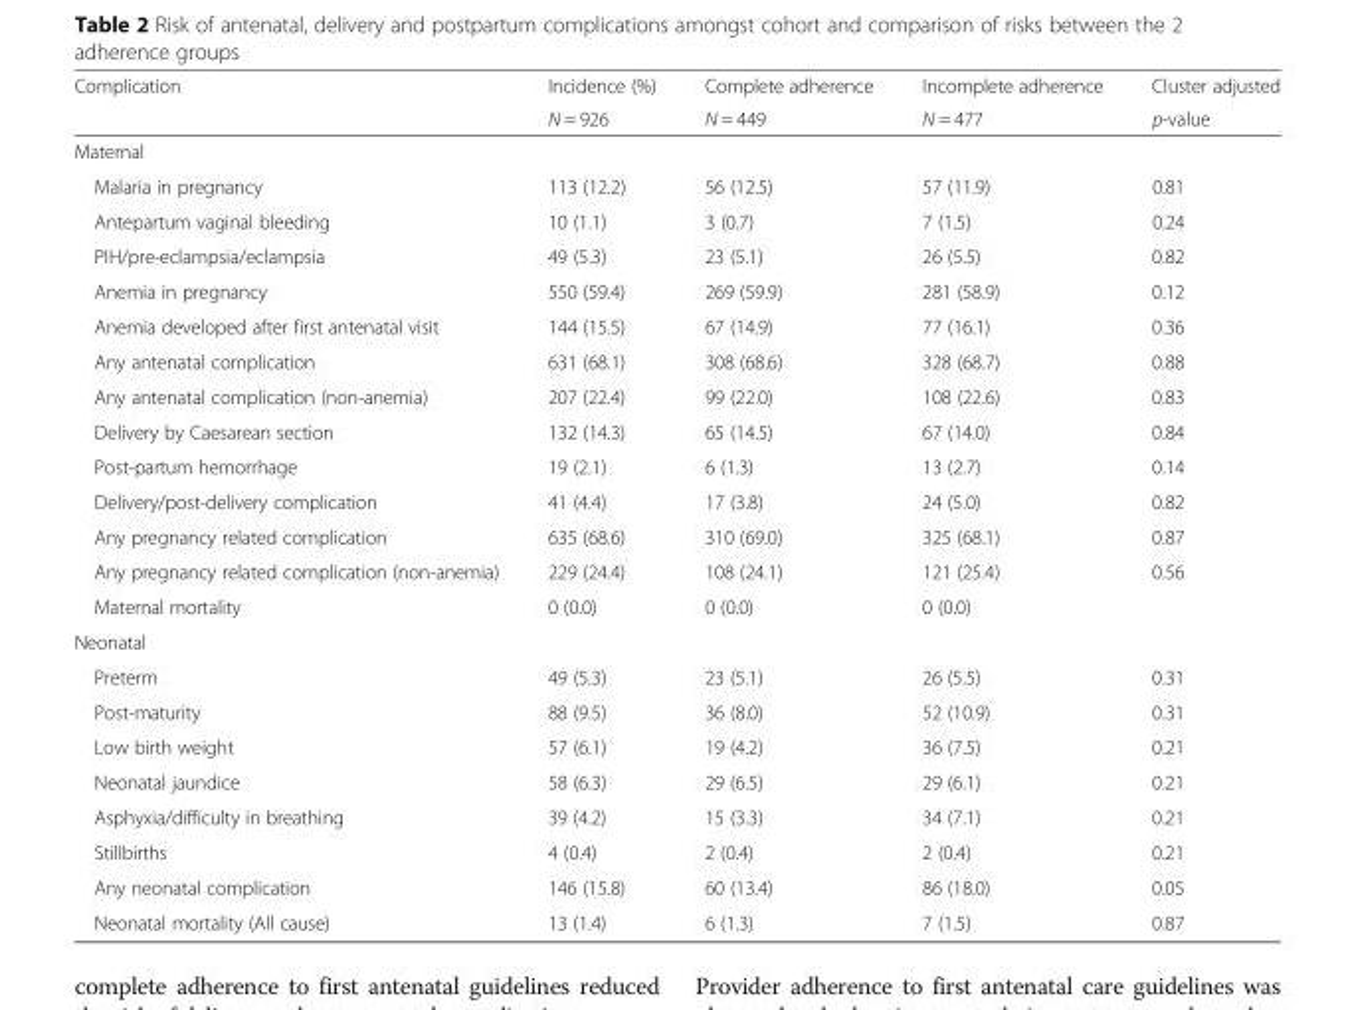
<table><thead><tr><td rowspan="2">Complication</td><td rowspan="2">Incidence (%) N = 926</td><td rowspan="2">Complete adherence N = 449</td><td rowspan="2">Incomplete adherence N = 477</td><td rowspan="2">Cluster adjusted p-value</td></tr><tr></tr></thead><tbody><tr><td colspan="5">Maternal</td></tr><tr><td>Malaria in pregnancy</td><td>113 (12.2)</td><td>56 (12.5)</td><td>57 (11.9)</td><td>0.81</td></tr><tr><td>Antepartum vaginal bleeding</td><td>10 (1.1)</td><td>3 (0.7)</td><td>7 (1.5)</td><td>0.24</td></tr><tr><td>PIH/pre-eclampsia/eclampsia</td><td>49 (5.3)</td><td>23 (5.1)</td><td>26 (5.5)</td><td>0.82</td></tr><tr><td>Anemia in pregnancy</td><td>550 (59.4)</td><td>269 (59.9)</td><td>281 (58.9)</td><td>0.12</td></tr><tr><td>Anemia developed after first antenatal visit</td><td>144 (15.5)</td><td>67 (14.9)</td><td>77 (16.1)</td><td>0.36</td></tr><tr><td>Any antenatal complication</td><td>631 (68.1)</td><td>308 (68.6)</td><td>328 (68.7)</td><td>0.88</td></tr><tr><td>Any antenatal complication (non-anemia)</td><td>207 (22.4)</td><td>99 (22.0)</td><td>108 (22.6)</td><td>0.83</td></tr><tr><td>Delivery by Caesarean section</td><td>132 (14.3)</td><td>65 (14.5)</td><td>67 (14.0)</td><td>0.84</td></tr><tr><td>Post-partum hemorrhage</td><td>19 (2.1)</td><td>6 (1.3)</td><td>13 (2.7)</td><td>0.14</td></tr><tr><td>Delivery/post-delivery complication</td><td>41 (4.4)</td><td>17 (3.8)</td><td>24 (5.0)</td><td>0.82</td></tr><tr><td>Any pregnancy related complication</td><td>635 (68.6)</td><td>310 (69.0)</td><td>325 (68.1)</td><td>0.87</td></tr><tr><td>Any pregnancy related complication (non-anemia)</td><td>229 (24.4)</td><td>108 (24.1)</td><td>121 (25.4)</td><td>0.56</td></tr><tr><td>Maternal mortality</td><td>0 (0.0)</td><td>0 (0.0)</td><td>0 (0.0)</td><td></td></tr><tr><td colspan="5">Neonatal</td></tr><tr><td>Preterm</td><td>49 (5.3)</td><td>23 (5.1)</td><td>26 (5.5)</td><td>0.31</td></tr><tr><td>Post-maturity</td><td>88 (9.5)</td><td>36 (8.0)</td><td>52 (10.9)</td><td>0.31</td></tr><tr><td>Low birth weight</td><td>57 (6.1)</td><td>19 (4.2)</td><td>36 (7.5)</td><td>0.21</td></tr><tr><td>Neonatal jaundice</td><td>58 (6.3)</td><td>29 (6.5)</td><td>29 (6.1)</td><td>0.21</td></tr><tr><td>Asphyxia/difficulty in breathing</td><td>39 (4.2)</td><td>15 (3.3)</td><td>34 (7.1)</td><td>0.21</td></tr><tr><td>Stillbirths</td><td>4 (0.4)</td><td>2 (0.4)</td><td>2 (0.4)</td><td>0.21</td></tr><tr><td>Any neonatal complication</td><td>146 (15.8)</td><td>60 (13.4)</td><td>86 (18.0)</td><td>0.05</td></tr><tr><td>Neonatal mortality (All cause)</td><td>13 (1.4)</td><td>6 (1.3)</td><td>7 (1.5)</td><td>0.87</td></tr></tbody></table>